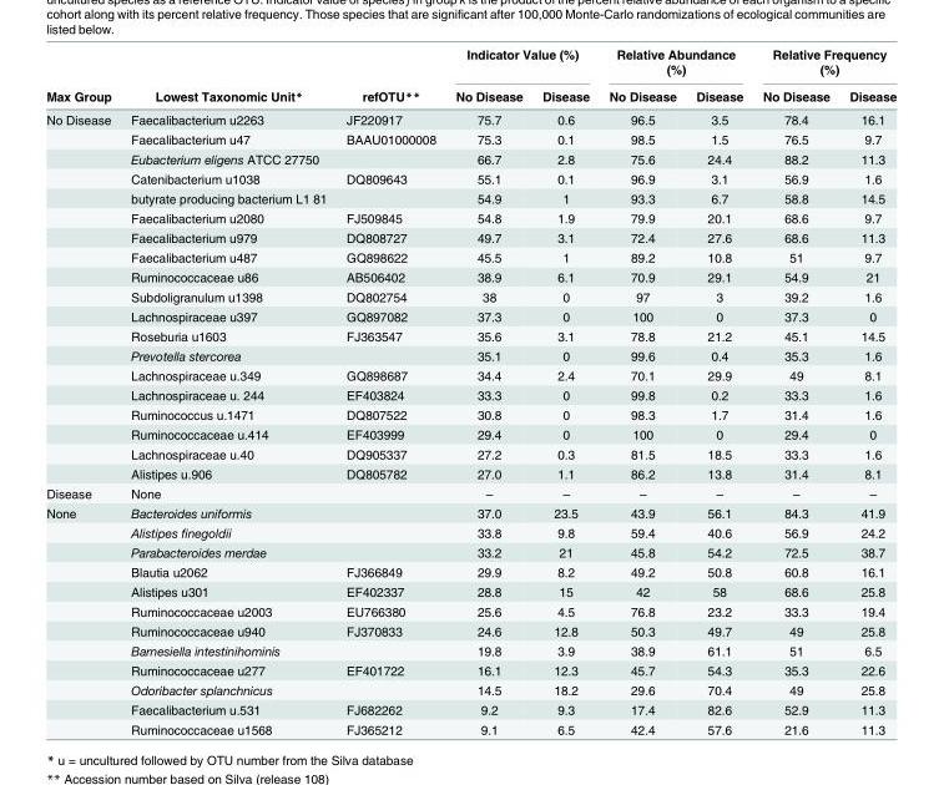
<table><thead><tr><td rowspan="2">Max Group</td><td rowspan="2">Lowest Taxonomic Unit*</td><td rowspan="2">refOTU**</td><td colspan="2">Indicator Value (%)</td><td colspan="2">Relative Abundance (%)</td><td colspan="2">Relative Frequency (%)</td></tr><tr><td>No Disease</td><td>Disease</td><td>No Disease</td><td>Disease</td><td>No Disease</td><td>Disease</td></tr></thead><tbody><tr><td rowspan="19">No Disease</td><td>Faecalibacterium u2263</td><td>JF220917</td><td>75.7</td><td>0.6</td><td>96.5</td><td>3.5</td><td>78.4</td><td>16.1</td></tr><tr><td>Faecalibacterium u47</td><td>BAAU01000008</td><td>75.3</td><td>0.1</td><td>98.5</td><td>1.5</td><td>76.5</td><td>9.7</td></tr><tr><td>Eubacterium eligens ATCC 27750</td><td></td><td>66.7</td><td>2.8</td><td>75.6</td><td>24.4</td><td>88.2</td><td>11.3</td></tr><tr><td>Catenibacterium u1038</td><td>DQ809643</td><td>55.1</td><td>0.1</td><td>96.9</td><td>3.1</td><td>56.9</td><td>1.6</td></tr><tr><td>butyrate producing bacterium L1 81</td><td></td><td>54.9</td><td>1</td><td>93.3</td><td>6.7</td><td>58.8</td><td>14.5</td></tr><tr><td>Faecalibacterium u2080</td><td>FJ509845</td><td>54.8</td><td>1.9</td><td>79.9</td><td>20.1</td><td>68.6</td><td>9.7</td></tr><tr><td>Faecalibacterium u979</td><td>DQ808727</td><td>49.7</td><td>3.1</td><td>72.4</td><td>27.6</td><td>68.6</td><td>11.3</td></tr><tr><td>Faecalibacterium u487</td><td>GQ898622</td><td>45.5</td><td>1</td><td>89.2</td><td>10.8</td><td>51</td><td>9.7</td></tr><tr><td>Ruminococcaceae u86</td><td>AB506402</td><td>38.9</td><td>6.1</td><td>70.9</td><td>29.1</td><td>54.9</td><td>21</td></tr><tr><td>Subdoligranulum u1398</td><td>DQ802754</td><td>38</td><td>0</td><td>97</td><td>3</td><td>39.2</td><td>1.6</td></tr><tr><td>Lachnospiraceae u397</td><td>GQ897082</td><td>37.3</td><td>0</td><td>100</td><td>0</td><td>37.3</td><td>0</td></tr><tr><td>Roseburia u1603</td><td>FJ363547</td><td>35.6</td><td>3.1</td><td>78.8</td><td>21.2</td><td>45.1</td><td>14.5</td></tr><tr><td>Prevotella stercorea</td><td></td><td>35.1</td><td>0</td><td>99.6</td><td>0.4</td><td>35.3</td><td>1.6</td></tr><tr><td>Lachnospiraceae u.349</td><td>GQ898687</td><td>34.4</td><td>2.4</td><td>70.1</td><td>29.9</td><td>49</td><td>8.1</td></tr><tr><td>Lachnospiraceae u. 244</td><td>EF403824</td><td>33.3</td><td>0</td><td>99.8</td><td>0.2</td><td>33.3</td><td>1.6</td></tr><tr><td>Ruminococcus u.1471</td><td>DQ807522</td><td>30.8</td><td>0</td><td>98.3</td><td>1.7</td><td>31.4</td><td>1.6</td></tr><tr><td>Ruminococcaceae u.414</td><td>EF403999</td><td>29.4</td><td>0</td><td>100</td><td>0</td><td>29.4</td><td>0</td></tr><tr><td>Lachnospiraceae u.40</td><td>DQ905337</td><td>27.2</td><td>0.3</td><td>81.5</td><td>18.5</td><td>33.3</td><td>1.6</td></tr><tr><td>Alistipes u.906</td><td>DQ805782</td><td>27.0</td><td>1.1</td><td>86.2</td><td>13.8</td><td>31.4</td><td>8.1</td></tr><tr><td>Disease</td><td>None</td><td></td><td>–</td><td>–</td><td>–</td><td>–</td><td>–</td><td>–</td></tr><tr><td rowspan="12">None</td><td>Bacteroides uniformis</td><td></td><td>37.0</td><td>23.5</td><td>43.9</td><td>56.1</td><td>84.3</td><td>41.9</td></tr><tr><td>Alistipes finegoldii</td><td></td><td>33.8</td><td>9.8</td><td>59.4</td><td>40.6</td><td>56.9</td><td>24.2</td></tr><tr><td>Parabacteroides merdae</td><td></td><td>33.2</td><td>21</td><td>45.8</td><td>54.2</td><td>72.5</td><td>38.7</td></tr><tr><td>Blautia u2062</td><td>FJ366849</td><td>29.9</td><td>8.2</td><td>49.2</td><td>50.8</td><td>60.8</td><td>16.1</td></tr><tr><td>Alistipes u301</td><td>EF402337</td><td>28.8</td><td>15</td><td>42</td><td>58</td><td>68.6</td><td>25.8</td></tr><tr><td>Ruminococcaceae u2003</td><td>EU766380</td><td>25.6</td><td>4.5</td><td>76.8</td><td>23.2</td><td>33.3</td><td>19.4</td></tr><tr><td>Ruminococcaceae u940</td><td>FJ370833</td><td>24.6</td><td>12.8</td><td>50.3</td><td>49.7</td><td>49</td><td>25.8</td></tr><tr><td>Barnesiella intestinihominis</td><td></td><td>19.8</td><td>3.9</td><td>38.9</td><td>61.1</td><td>51</td><td>6.5</td></tr><tr><td>Ruminococcaceae u277</td><td>EF401722</td><td>16.1</td><td>12.3</td><td>45.7</td><td>54.3</td><td>35.3</td><td>22.6</td></tr><tr><td>Odoribacter splanchnicus</td><td></td><td>14.5</td><td>18.2</td><td>29.6</td><td>70.4</td><td>49</td><td>25.8</td></tr><tr><td>Faecalibacterium u.531</td><td>FJ682262</td><td>9.2</td><td>9.3</td><td>17.4</td><td>82.6</td><td>52.9</td><td>11.3</td></tr><tr><td>Ruminococcaceae u1568</td><td>FJ365212</td><td>9.1</td><td>6.5</td><td>42.4</td><td>57.6</td><td>21.6</td><td>11.3</td></tr></tbody></table>